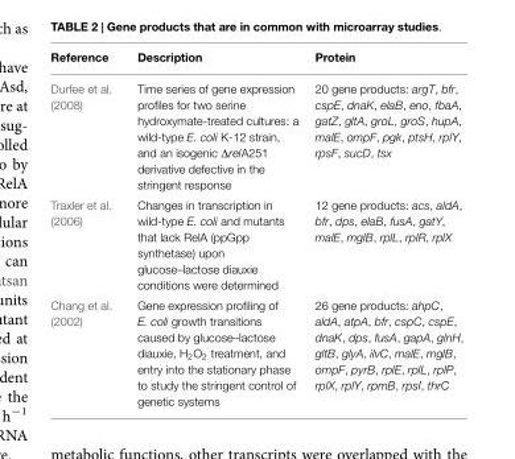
<table><thead><tr><td>Reference</td><td>Description</td><td>Protein</td></tr></thead><tbody><tr><td>Durfee et al. (2008)</td><td>Time series of gene expression profiles for two serine hydroxymate-treated cultures: a wild-type E. coli K-12 strain, and an isogenic ΔrelA251 derivative defective in the stringent response</td><td>20 gene products: argT, bfr, cspE, dnaK, elaB, eno, fbaA, gatZ, gltA, groL, groS, hupA, malE, ompF, pgk, ptsH, rplY, rpsF, sucD, tsx</td></tr><tr><td>Traxler et al. (2006)</td><td>Changes in transcription in wild-type E. coli and mutants that lack RelA (ppGpp synthetase) upon glucose–lactose diauxie conditions were determined</td><td>12 gene products: acs, aldA, bfr, dps, elaB, fusA, gatY, malE, mglB, rplL, rplR, rplX</td></tr><tr><td>Chang et al. (2002)</td><td>Gene expression profiling of E. coli growth transitions caused by glucose–lactose diauxie, H<sub>2</sub>O<sub>2</sub> treatment, and entry into the stationary phase to study the stringent control of genetic systems</td><td>26 gene products: ahpC, aldA, atpA, bfr, cspC, cspE, dnaK, dps, fusA, gapA, glnH, gltB, glyA, ilvC, malE, mglB, ompF, pyrB, rplE, rplL, rplP, rplX, rplY, rpmB, rpsI, thrC</td></tr></tbody></table>